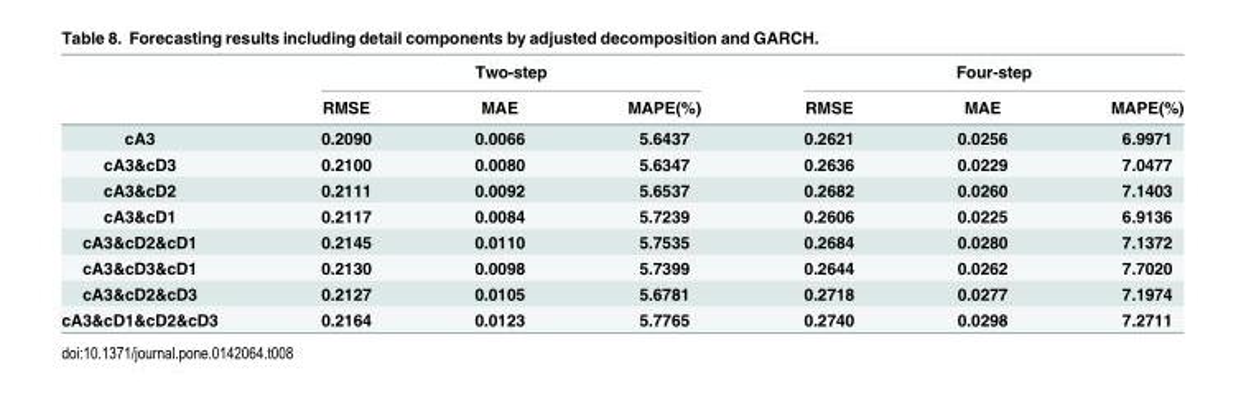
<table><thead><tr><td rowspan="2"></td><td colspan="3">Two-step</td><td colspan="3">Four-step</td></tr><tr><td>RMSE</td><td>MAE</td><td>MAPE(%)</td><td>RMSE</td><td>MAE</td><td>MAPE(%)</td></tr></thead><tbody><tr><td>cA3</td><td>0.2090</td><td>0.0066</td><td>5.6437</td><td>0.2621</td><td>0.0256</td><td>6.9971</td></tr><tr><td>cA3&amp;cD3</td><td>0.2100</td><td>0.0080</td><td>5.6347</td><td>0.2636</td><td>0.0229</td><td>7.0477</td></tr><tr><td>cA3&amp;cD2</td><td>0.2111</td><td>0.0092</td><td>5.6537</td><td>0.2682</td><td>0.0260</td><td>7.1403</td></tr><tr><td>cA3&amp;cD1</td><td>0.2117</td><td>0.0084</td><td>5.7239</td><td>0.2606</td><td>0.0225</td><td>6.9136</td></tr><tr><td>cA3&amp;cD2&amp;cD1</td><td>0.2145</td><td>0.0110</td><td>5.7535</td><td>0.2684</td><td>0.0280</td><td>7.1372</td></tr><tr><td>cA3&amp;cD3&amp;cD1</td><td>0.2130</td><td>0.0098</td><td>5.7399</td><td>0.2644</td><td>0.0262</td><td>7.7020</td></tr><tr><td>cA3&amp;cD2&amp;cD3</td><td>0.2127</td><td>0.0105</td><td>5.6781</td><td>0.2718</td><td>0.0277</td><td>7.1974</td></tr><tr><td>cA3&amp;cD1&amp;cD2&amp;cD3</td><td>0.2164</td><td>0.0123</td><td>5.7765</td><td>0.2740</td><td>0.0298</td><td>7.2711</td></tr></tbody></table>